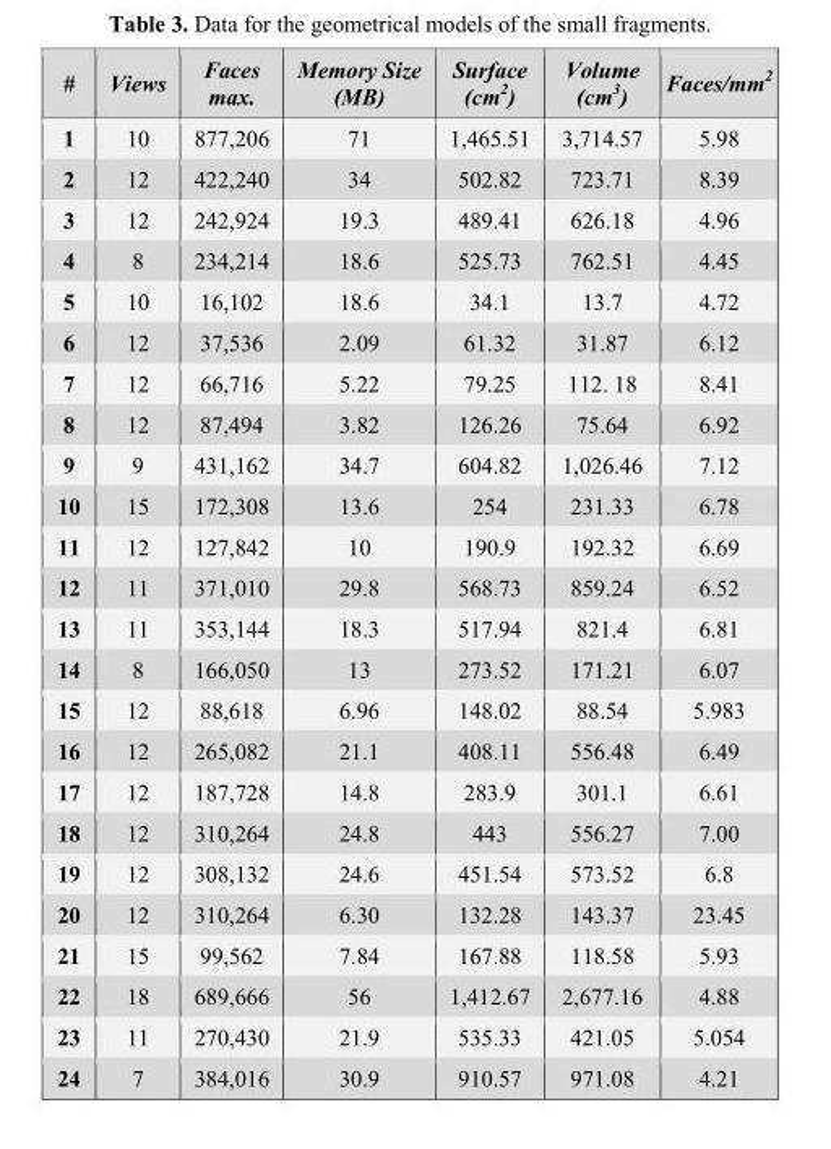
<table><thead><tr><td>#</td><td>Views</td><td>Faces max.</td><td>Memory Size (MB)</td><td>Surface (cm<sup>2</sup>)</td><td>Volume (cm<sup>3</sup>)</td><td>Faces/mm<sup>2</sup></td></tr></thead><tbody><tr><td>1</td><td>10</td><td>877,206</td><td>71</td><td>1,465.51</td><td>3,714.57</td><td>5.98</td></tr><tr><td>2</td><td>12</td><td>422,240</td><td>34</td><td>502.82</td><td>723.71</td><td>8.39</td></tr><tr><td>3</td><td>12</td><td>242,924</td><td>19.3</td><td>489.41</td><td>626.18</td><td>4.96</td></tr><tr><td>4</td><td>8</td><td>234,214</td><td>18.6</td><td>525.73</td><td>762.51</td><td>4.45</td></tr><tr><td>5</td><td>10</td><td>16,102</td><td>18.6</td><td>34.1</td><td>13.7</td><td>4.72</td></tr><tr><td>6</td><td>12</td><td>37,536</td><td>2.09</td><td>61.32</td><td>31.87</td><td>6.12</td></tr><tr><td>7</td><td>12</td><td>66,716</td><td>5.22</td><td>79.25</td><td>112. 18</td><td>8.41</td></tr><tr><td>8</td><td>12</td><td>87,494</td><td>3.82</td><td>126.26</td><td>75.64</td><td>6.92</td></tr><tr><td>9</td><td>9</td><td>431,162</td><td>34.7</td><td>604.82</td><td>1,026.46</td><td>7.12</td></tr><tr><td>10</td><td>15</td><td>172,308</td><td>13.6</td><td>254</td><td>231.33</td><td>6.78</td></tr><tr><td>11</td><td>12</td><td>127,842</td><td>10</td><td>190.9</td><td>192.32</td><td>6.69</td></tr><tr><td>12</td><td>11</td><td>371,010</td><td>29.8</td><td>568.73</td><td>859.24</td><td>6.52</td></tr><tr><td>13</td><td>11</td><td>353,144</td><td>18.3</td><td>517.94</td><td>821.4</td><td>6.81</td></tr><tr><td>14</td><td>8</td><td>166,050</td><td>13</td><td>273.52</td><td>171.21</td><td>6.07</td></tr><tr><td>15</td><td>12</td><td>88,618</td><td>6.96</td><td>148.02</td><td>88.54</td><td>5.983</td></tr><tr><td>16</td><td>12</td><td>265,082</td><td>21.1</td><td>408.11</td><td>556.48</td><td>6.49</td></tr><tr><td>17</td><td>12</td><td>187,728</td><td>14.8</td><td>283.9</td><td>301.1</td><td>6.61</td></tr><tr><td>18</td><td>12</td><td>310,264</td><td>24.8</td><td>443</td><td>556.27</td><td>7.00</td></tr><tr><td>19</td><td>12</td><td>308,132</td><td>24.6</td><td>451.54</td><td>573.52</td><td>6.8</td></tr><tr><td>20</td><td>12</td><td>310,264</td><td>6.30</td><td>132.28</td><td>143.37</td><td>23.45</td></tr><tr><td>21</td><td>15</td><td>99,562</td><td>7.84</td><td>167.88</td><td>118.58</td><td>5.93</td></tr><tr><td>22</td><td>18</td><td>689,666</td><td>56</td><td>1,412.67</td><td>2,677.16</td><td>4.88</td></tr><tr><td>23</td><td>11</td><td>270,430</td><td>21.9</td><td>535.33</td><td>421.05</td><td>5.054</td></tr><tr><td>24</td><td>7</td><td>384,016</td><td>30.9</td><td>910.57</td><td>971.08</td><td>4.21</td></tr></tbody></table>